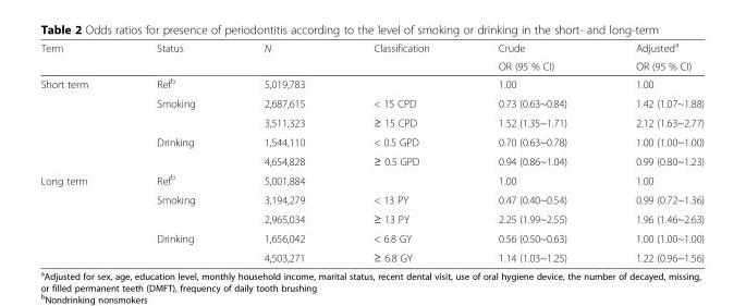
<table><thead><tr><td rowspan="2">Term</td><td rowspan="2">Status</td><td rowspan="2">N</td><td rowspan="2">Classification</td><td rowspan="2">Crude OR (95 % CI)</td><td rowspan="2">Adjusted<sup>a</sup> OR (95 % CI)</td></tr><tr></tr></thead><tbody><tr><td rowspan="5">Short term</td><td>Ref<sup>b</sup></td><td>5,019,783</td><td></td><td>1.00</td><td>1.00</td></tr><tr><td rowspan="2">Smoking</td><td>2,687,615</td><td>&lt; 15 CPD</td><td>0.73 (0.63~0.84)</td><td>1.42 (1.07~1.88)</td></tr><tr><td>3,511,323</td><td>≥ 15 CPD</td><td>1.52 (1.35~1.71)</td><td>2.12 (1.63~2.77)</td></tr><tr><td rowspan="2">Drinking</td><td>1,544,110</td><td>&lt; 0.5 GPD</td><td>0.70 (0.63~0.78)</td><td>1.00 (1.00~1.00)</td></tr><tr><td>4,654,828</td><td>≥ 0.5 GPD</td><td>0.94 (0.86~1.04)</td><td>0.99 (0.80~1.23)</td></tr><tr><td rowspan="5">Long term</td><td>Ref<sup>b</sup></td><td>5,001,884</td><td></td><td>1.00</td><td>1.00</td></tr><tr><td rowspan="2">Smoking</td><td>3,194,279</td><td>&lt; 13 PY</td><td>0.47 (0.40~0.54)</td><td>0.99 (0.72~1.36)</td></tr><tr><td>2,965,034</td><td>≥ 13 PY</td><td>2.25 (1.99~2.55)</td><td>1.96 (1.46~2.63)</td></tr><tr><td rowspan="2">Drinking</td><td>1,656,042</td><td>&lt; 6.8 GY</td><td>0.56 (0.50~0.63)</td><td>1.00 (1.00~1.00)</td></tr><tr><td>4,503,271</td><td>≥ 6.8 GY</td><td>1.14 (1.03~1.25)</td><td>1.22 (0.96~1.56)</td></tr></tbody></table>